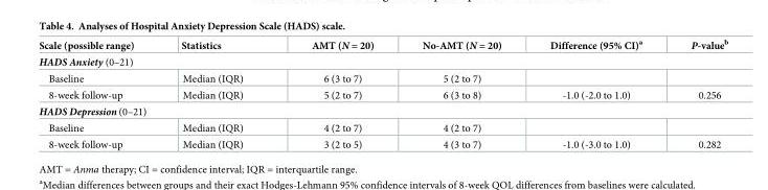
<table><thead><tr><td>Scale (possible range)</td><td>Statistics</td><td>AMT (N = 20)</td><td>No-AMT (N = 20)</td><td>Difference (95% CI)<sup>a</sup></td><td>P-value<sup>b</sup></td></tr></thead><tbody><tr><td colspan="6">HADS Anxiety (0–21)</td></tr><tr><td>Baseline</td><td>Median (IQR)</td><td>6 (3 to 7)</td><td>5 (2 to 7)</td><td></td><td></td></tr><tr><td>8-week follow-up</td><td>Median (IQR)</td><td>5 (2 to 7)</td><td>6 (3 to 8)</td><td>-1.0 (-2.0 to 1.0)</td><td>0.256</td></tr><tr><td colspan="6">HADS Depression (0–21)</td></tr><tr><td>Baseline</td><td>Median (IQR)</td><td>4 (2 to 7)</td><td>4 (2 to 7)</td><td></td><td></td></tr><tr><td>8-week follow-up</td><td>Median (IQR)</td><td>3 (2 to 5)</td><td>4 (3 to 7)</td><td>-1.0 (-3.0 to 1.0)</td><td>0.282</td></tr></tbody></table>